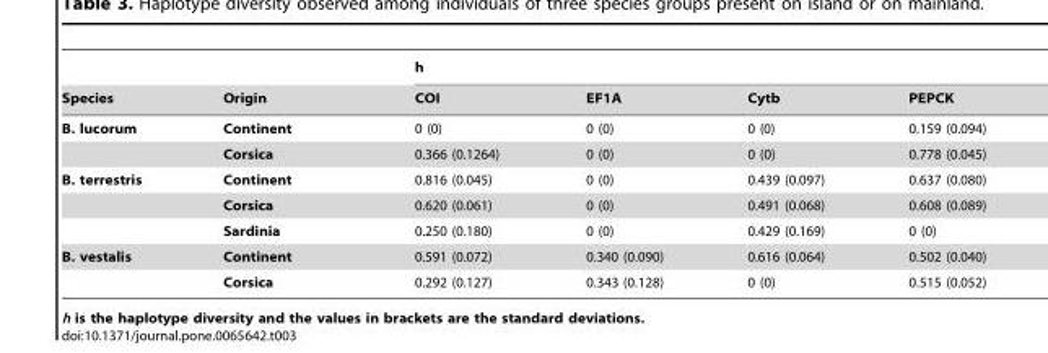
<table><thead><tr><td rowspan="2">Species</td><td rowspan="2">Origin</td><td colspan="4">h</td></tr><tr><td>COI</td><td>EF1A</td><td>Cytb</td><td>PEPCK</td></tr></thead><tbody><tr><td rowspan="2">B. lucorum</td><td>Continent</td><td>0 (0)</td><td>0 (0)</td><td>0 (0)</td><td>0.159 (0.094)</td></tr><tr><td>Corsica</td><td>0.366 (0.1264)</td><td>0 (0)</td><td>0 (0)</td><td>0.778 (0.045)</td></tr><tr><td rowspan="3">B. terrestris</td><td>Continent</td><td>0.816 (0.045)</td><td>0 (0)</td><td>0.439 (0.097)</td><td>0.637 (0.080)</td></tr><tr><td>Corsica</td><td>0.620 (0.061)</td><td>0 (0)</td><td>0.491 (0.068)</td><td>0.608 (0.089)</td></tr><tr><td>Sardinia</td><td>0.250 (0.180)</td><td>0 (0)</td><td>0.429 (0.169)</td><td>0 (0)</td></tr><tr><td rowspan="2">B. vestalis</td><td>Continent</td><td>0.591 (0.072)</td><td>0.340 (0.090)</td><td>0.616 (0.064)</td><td>0.502 (0.040)</td></tr><tr><td>Corsica</td><td>0.292 (0.127)</td><td>0.343 (0.128)</td><td>0 (0)</td><td>0.515 (0.052)</td></tr></tbody></table>